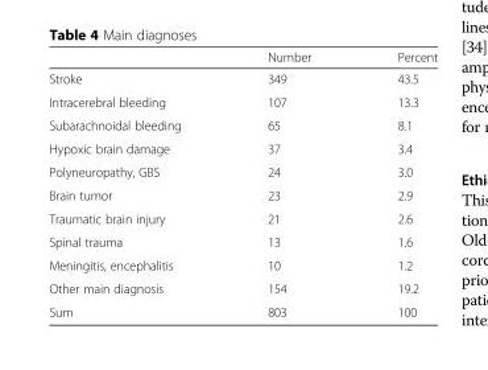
<table><thead><tr><td></td><td>Number</td><td>Percent</td></tr></thead><tbody><tr><td>Stroke</td><td>349</td><td>43.5</td></tr><tr><td>Intracerebral bleeding</td><td>107</td><td>13.3</td></tr><tr><td>Subarachnoidal bleeding</td><td>65</td><td>8.1</td></tr><tr><td>Hypoxic brain damage</td><td>37</td><td>3.4</td></tr><tr><td>Polyneuropathy, GBS</td><td>24</td><td>3.0</td></tr><tr><td>Brain tumor</td><td>23</td><td>2.9</td></tr><tr><td>Traumatic brain injury</td><td>21</td><td>2.6</td></tr><tr><td>Spinal trauma</td><td>13</td><td>1.6</td></tr><tr><td>Meningitis, encephalitis</td><td>10</td><td>1.2</td></tr><tr><td>Other main diagnosis</td><td>154</td><td>19.2</td></tr><tr><td>Sum</td><td>803</td><td>100</td></tr></tbody></table>